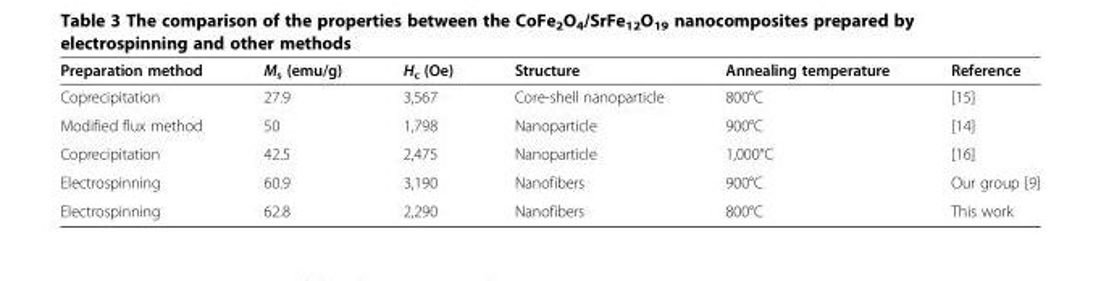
<table><thead><tr><td>Preparation method</td><td>M<sub>s</sub> (emu/g)</td><td>H<sub>c</sub> (Oe)</td><td>Structure</td><td>Annealing temperature</td><td>Reference</td></tr></thead><tbody><tr><td>Coprecipitation</td><td>27.9</td><td>3,567</td><td>Core-shell nanoparticle</td><td>800°C</td><td>[15]</td></tr><tr><td>Modified flux method</td><td>50</td><td>1,798</td><td>Nanoparticle</td><td>900°C</td><td>[14]</td></tr><tr><td>Coprecipitation</td><td>42.5</td><td>2,475</td><td>Nanoparticle</td><td>1,000°C</td><td>[16]</td></tr><tr><td>Electrospinning</td><td>60.9</td><td>3,190</td><td>Nanofibers</td><td>900°C</td><td>Our group [9]</td></tr><tr><td>Electrospinning</td><td>62.8</td><td>2,290</td><td>Nanofibers</td><td>800°C</td><td>This work</td></tr></tbody></table>